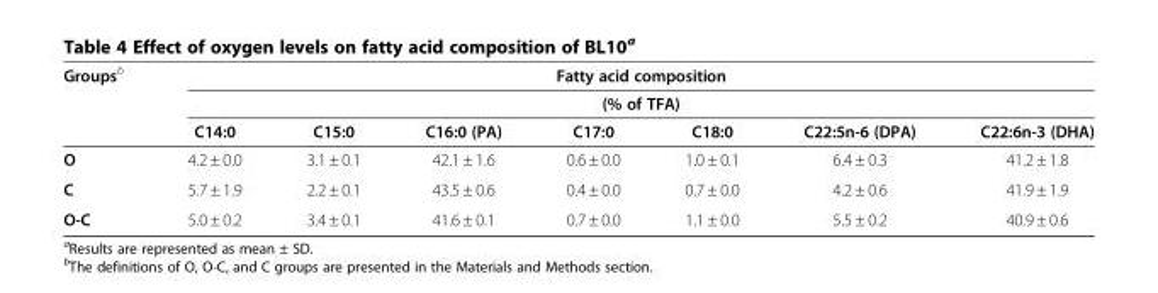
<table><thead><tr><td rowspan="3">Groups<sup>b</sup></td><td rowspan="2" colspan="7">Fatty acid composition (% of TFA)</td></tr><tr></tr><tr><td>C14:0</td><td>C15:0</td><td>C16:0 (PA)</td><td>C17:0</td><td>C18:0</td><td>C22:5n-6 (DPA)</td><td>C22:6n-3 (DHA)</td></tr></thead><tbody><tr><td>O</td><td>4.2 ± 0.0</td><td>3.1 ± 0.1</td><td>42.1 ± 1.6</td><td>0.6 ± 0.0</td><td>1.0 ± 0.1</td><td>6.4 ± 0.3</td><td>41.2 ± 1.8</td></tr><tr><td>C</td><td>5.7 ± 1.9</td><td>2.2 ± 0.1</td><td>43.5 ± 0.6</td><td>0.4 ± 0.0</td><td>0.7 ± 0.0</td><td>4.2 ± 0.6</td><td>41.9 ± 1.9</td></tr><tr><td>O-C</td><td>5.0 ± 0.2</td><td>3.4 ± 0.1</td><td>41.6 ± 0.1</td><td>0.7 ± 0.0</td><td>1.1 ± 0.0</td><td>5.5 ± 0.2</td><td>40.9 ± 0.6</td></tr></tbody></table>